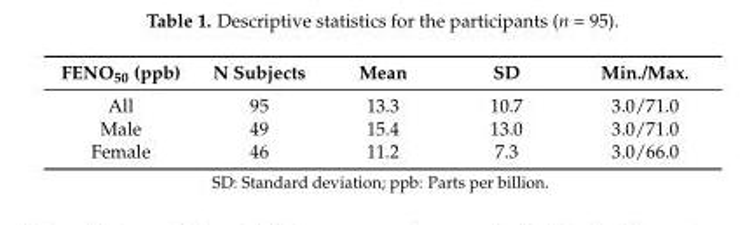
<table><thead><tr><td>FENO<sub>50</sub> (ppb)</td><td>N Subjects</td><td>Mean</td><td>SD</td><td>Min./Max.</td></tr></thead><tbody><tr><td>All</td><td>95</td><td>13.3</td><td>10.7</td><td>3.0/71.0</td></tr><tr><td>Male</td><td>49</td><td>15.4</td><td>13.0</td><td>3.0/71.0</td></tr><tr><td>Female</td><td>46</td><td>11.2</td><td>7.3</td><td>3.0/66.0</td></tr></tbody></table>